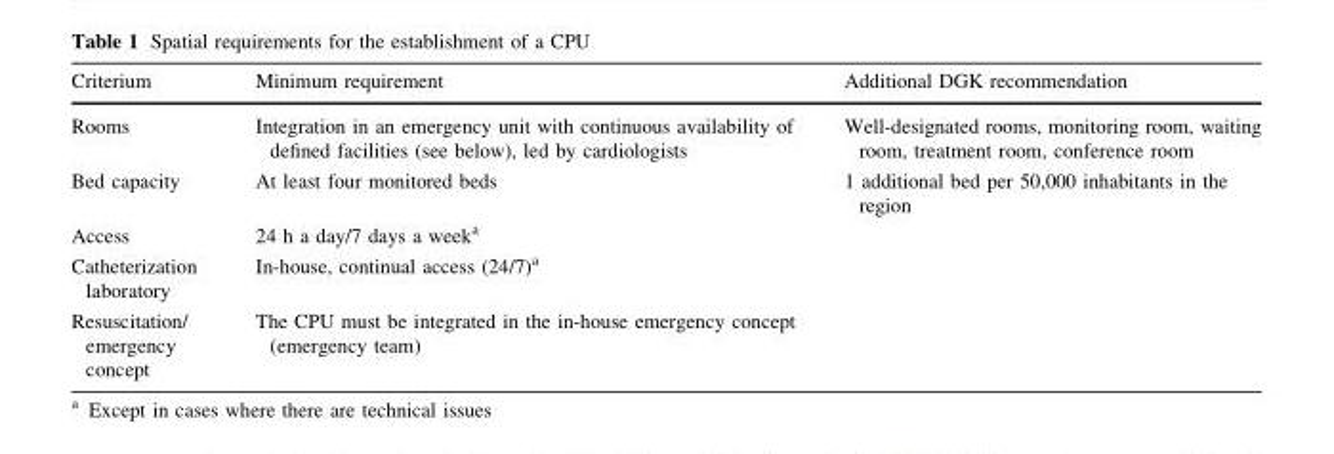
<table><thead><tr><td>Criterium</td><td>Minimum requirement</td><td>Additional DGK recommendation</td></tr></thead><tbody><tr><td>Rooms</td><td>Integration in an emergency unit with continuous availability of defined facilities (see below), led by cardiologists</td><td>Well-designated rooms, monitoring room, waiting room, treatment room, conference room</td></tr><tr><td>Bed capacity</td><td>At least four monitored beds</td><td>1 additional bed per 50,000 inhabitants in the region</td></tr><tr><td>Access</td><td>24 h a day/7 days a week<sup>a</sup></td><td></td></tr><tr><td>Catheterization laboratory</td><td>In-house, continual access (24/7)<sup>a</sup></td><td></td></tr><tr><td>Resuscitation/ emergency concept</td><td>The CPU must be integrated in the in-house emergency concept (emergency team)</td><td></td></tr></tbody></table>